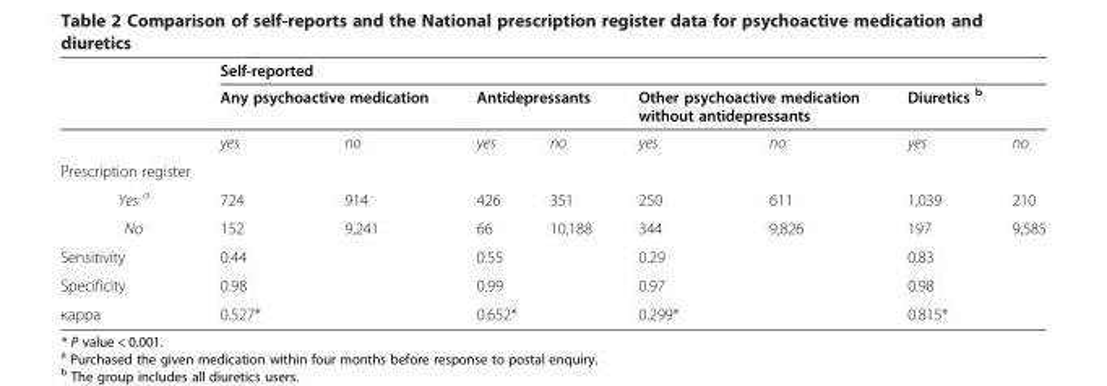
<table><thead><tr><td rowspan="3"></td><td rowspan="2" colspan="2">Self-reported Any psychoactive medication</td><td></td><td></td><td></td><td></td><td rowspan="3">Diuretics <sup>b</sup> yes</td><td rowspan="3">no</td></tr><tr><td colspan="2">Antidepressants</td><td colspan="2">Other psychoactive medication without antidepressants</td></tr><tr><td>yes</td><td>no</td><td>yes</td><td>no</td><td>yes</td><td>no</td></tr></thead><tbody><tr><td colspan="9">Prescription register</td></tr><tr><td>Yes <sup>a</sup></td><td>724</td><td>914</td><td>426</td><td>351</td><td>250</td><td>611</td><td>1,039</td><td>210</td></tr><tr><td>No</td><td>152</td><td>9,241</td><td>66</td><td>10,188</td><td>344</td><td>9,826</td><td>197</td><td>9,585</td></tr><tr><td>Sensitivity</td><td>0.44</td><td></td><td>0.55</td><td></td><td>0.29</td><td></td><td>0.83</td><td></td></tr><tr><td>Specificity</td><td>0.98</td><td></td><td>0.99</td><td></td><td>0.97</td><td></td><td>0.98</td><td></td></tr><tr><td>κappa</td><td colspan="2">0.527*</td><td colspan="2">0.652*</td><td colspan="2">0.299*</td><td colspan="2">0.815*</td></tr></tbody></table>